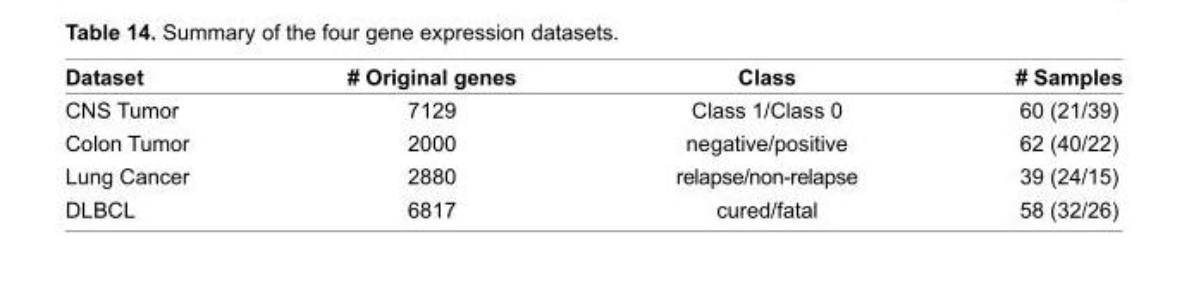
<table><thead><tr><td>Dataset</td><td># Original genes</td><td>Class</td><td># Samples</td></tr></thead><tbody><tr><td>CNS Tumor</td><td>7129</td><td>Class 1/Class 0</td><td>60 (21/39)</td></tr><tr><td>Colon Tumor</td><td>2000</td><td>negative/positive</td><td>62 (40/22)</td></tr><tr><td>Lung Cancer</td><td>2880</td><td>relapse/non-relapse</td><td>39 (24/15)</td></tr><tr><td>DLBCL</td><td>6817</td><td>cured/fatal</td><td>58 (32/26)</td></tr></tbody></table>